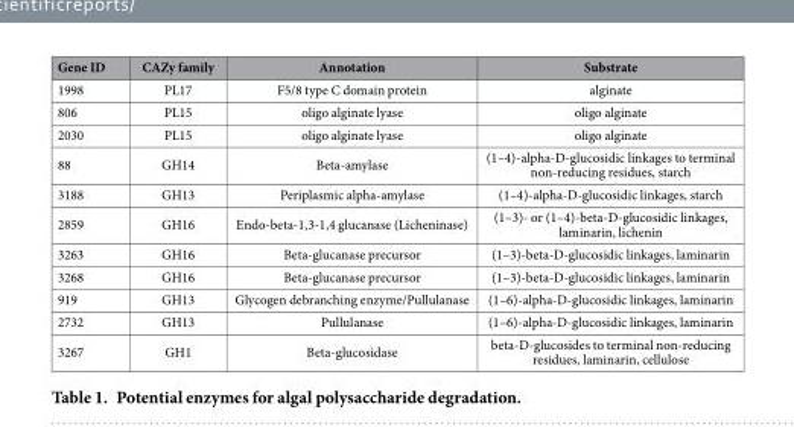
<table><thead><tr><td>Gene ID</td><td>CAZy family</td><td>Annotation</td><td>Substrate</td></tr></thead><tbody><tr><td>1998</td><td>PL17</td><td>F5/8 type C domain protein</td><td>alginate</td></tr><tr><td>806</td><td>PL15</td><td>oligo alginate lyase</td><td>oligo alginate</td></tr><tr><td>2030</td><td>PL15</td><td>oligo alginate lyase</td><td>oligo alginate</td></tr><tr><td>88</td><td>GH14</td><td>Beta-amylase</td><td>(1–4)-alpha-D-glucosidic linkages to terminal non-reducing residues, starch</td></tr><tr><td>3188</td><td>GH13</td><td>Periplasmic alpha-amylase</td><td>(1–4)-alpha-D-glucosidic linkages, starch</td></tr><tr><td>2859</td><td>GH16</td><td>Endo-beta-1,3-1,4 glucanase (Licheninase)</td><td>(1–3)- or (1–4)-beta-D-glucosidic linkages, laminarin, lichenin</td></tr><tr><td>3263</td><td>GH16</td><td>Beta-glucanase precursor</td><td>(1–3)-beta-D-glucosidic linkages, laminarin</td></tr><tr><td>3268</td><td>GH16</td><td>Beta-glucanase precursor</td><td>(1–3)-beta-D-glucosidic linkages, laminarin</td></tr><tr><td>919</td><td>GH13</td><td>Glycogen debranching enzyme/Pullulanase</td><td>(1–6)-alpha-D-glucosidic linkages, laminarin</td></tr><tr><td>2732</td><td>GH13</td><td>Pullulanase</td><td>(1–6)-alpha-D-glucosidic linkages, laminarin</td></tr><tr><td>3267</td><td>GH1</td><td>Beta-glucosidase</td><td>beta-D-glucosides to terminal non-reducing residues, laminarin, cellulose</td></tr></tbody></table>